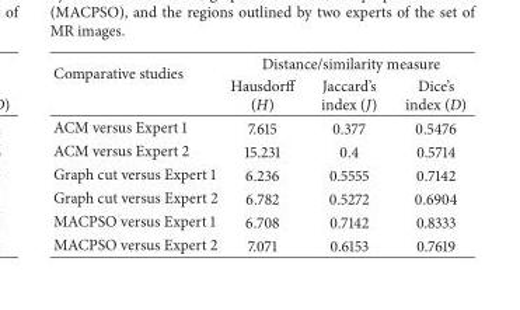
<table><thead><tr><td rowspan="2">Comparative studies</td><td colspan="3">Distance/similarity measure</td></tr><tr><td>Hausdorff (H)</td><td>Jaccard’s index (J)</td><td>Dice’s index (D)</td></tr></thead><tbody><tr><td>ACM versus Expert 1</td><td>7.615</td><td>0.377</td><td>0.5476</td></tr><tr><td>ACM versus Expert 2</td><td>15.231</td><td>0.4</td><td>0.5714</td></tr><tr><td>Graph cut versus Expert 1</td><td>6.236</td><td>0.5555</td><td>0.7142</td></tr><tr><td>Graph cut versus Expert 2</td><td>6.782</td><td>0.5272</td><td>0.6904</td></tr><tr><td>MACPSO versus Expert 1</td><td>6.708</td><td>0.7142</td><td>0.8333</td></tr><tr><td>MACPSO versus Expert 2</td><td>7.071</td><td>0.6153</td><td>0.7619</td></tr></tbody></table>